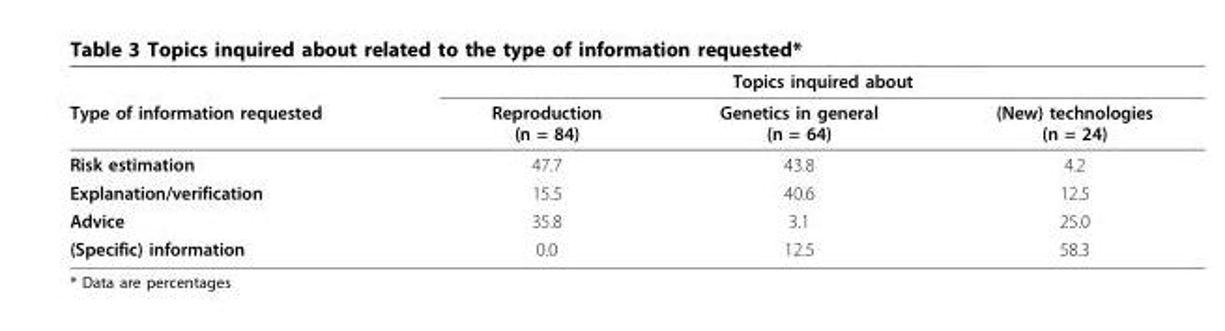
<table><thead><tr><td rowspan="2">Type of information requested</td><td colspan="3">Topics inquired about</td></tr><tr><td>Reproduction (n = 84)</td><td>Genetics in general (n = 64)</td><td>(New) technologies (n = 24)</td></tr></thead><tbody><tr><td>Risk estimation</td><td>47.7</td><td>43.8</td><td>4.2</td></tr><tr><td>Explanation/verification</td><td>15.5</td><td>40.6</td><td>12.5</td></tr><tr><td>Advice</td><td>35.8</td><td>3.1</td><td>25.0</td></tr><tr><td>(Specific) information</td><td>0.0</td><td>12.5</td><td>58.3</td></tr></tbody></table>